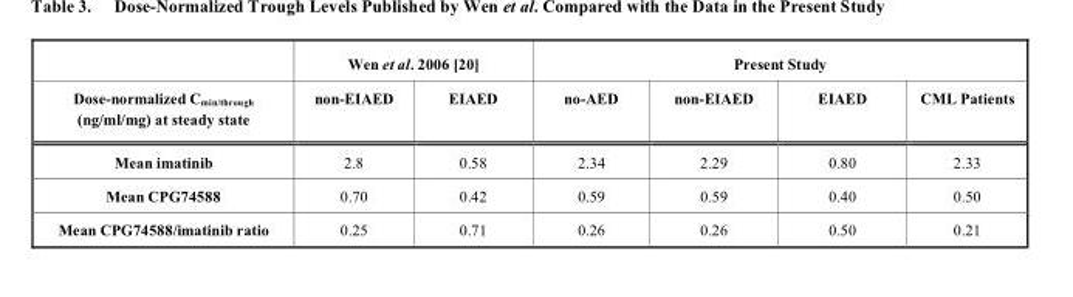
<table><thead><tr><td rowspan="2">Dose-normalized C<sub>min/through</sub> (ng/ml/mg) at steady state</td><td colspan="2">Wen et al. 2006 [20]</td><td colspan="4">Present Study</td></tr><tr><td>non-EIAED</td><td>EIAED</td><td>no-AED</td><td>non-EIAED</td><td>EIAED</td><td>CML Patients</td></tr></thead><tbody><tr><td>Mean imatinib</td><td>2.8</td><td>0.58</td><td>2.34</td><td>2.29</td><td>0.80</td><td>2.33</td></tr><tr><td>Mean CPG74588</td><td>0.70</td><td>0.42</td><td>0.59</td><td>0.59</td><td>0.40</td><td>0.50</td></tr><tr><td>Mean CPG74588/imatinib ratio</td><td>0.25</td><td>0.71</td><td>0.26</td><td>0.26</td><td>0.50</td><td>0.21</td></tr></tbody></table>